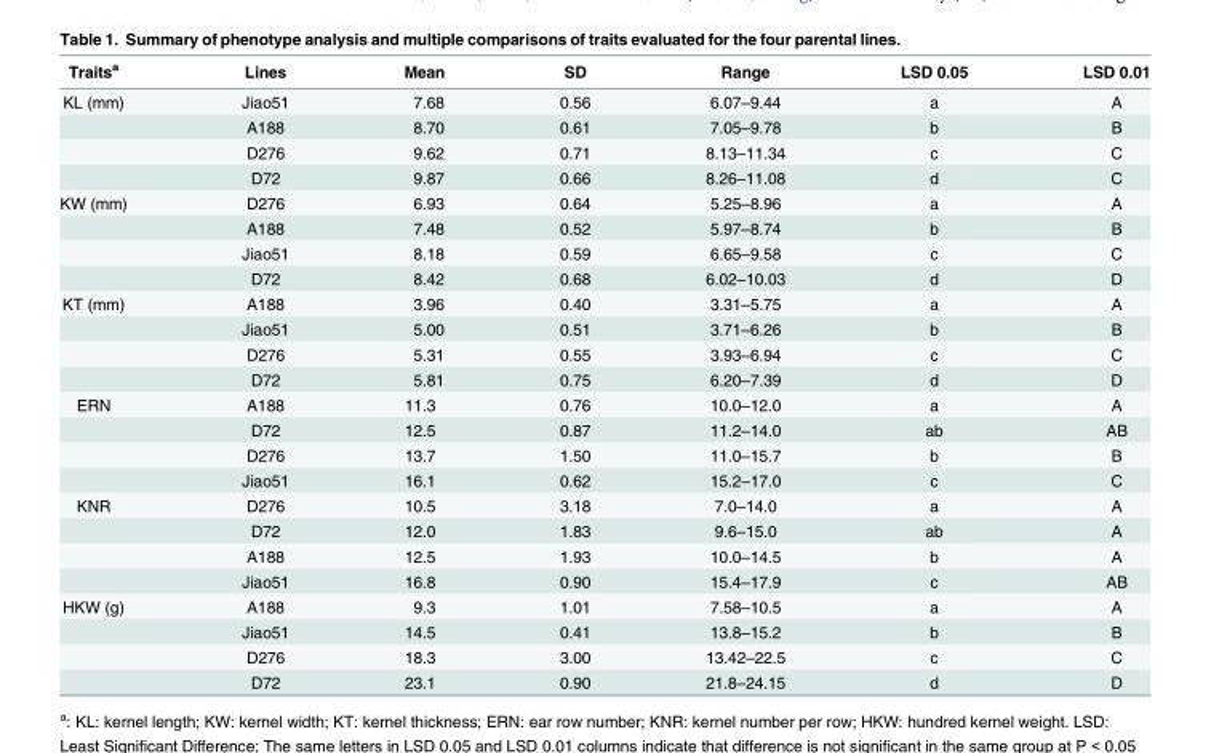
<table><thead><tr><td>Traits<sup>a</sup></td><td>Lines</td><td>Mean</td><td>SD</td><td>Range</td><td>LSD 0.05</td><td>LSD 0.01</td></tr></thead><tbody><tr><td rowspan="4">KL (mm)</td><td>Jiao51</td><td>7.68</td><td>0.56</td><td>6.07–9.44</td><td>a</td><td>A</td></tr><tr><td>A188</td><td>8.70</td><td>0.61</td><td>7.05–9.78</td><td>b</td><td>B</td></tr><tr><td>D276</td><td>9.62</td><td>0.71</td><td>8.13–11.34</td><td>c</td><td>C</td></tr><tr><td>D72</td><td>9.87</td><td>0.66</td><td>8.26–11.08</td><td>d</td><td>C</td></tr><tr><td rowspan="4">KW (mm)</td><td>D276</td><td>6.93</td><td>0.64</td><td>5.25–8.96</td><td>a</td><td>A</td></tr><tr><td>A188</td><td>7.48</td><td>0.52</td><td>5.97–8.74</td><td>b</td><td>B</td></tr><tr><td>Jiao51</td><td>8.18</td><td>0.59</td><td>6.65–9.58</td><td>c</td><td>C</td></tr><tr><td>D72</td><td>8.42</td><td>0.68</td><td>6.02–10.03</td><td>d</td><td>D</td></tr><tr><td rowspan="4">KT (mm)</td><td>A188</td><td>3.96</td><td>0.40</td><td>3.31–5.75</td><td>a</td><td>A</td></tr><tr><td>Jiao51</td><td>5.00</td><td>0.51</td><td>3.71–6.26</td><td>b</td><td>B</td></tr><tr><td>D276</td><td>5.31</td><td>0.55</td><td>3.93–6.94</td><td>c</td><td>C</td></tr><tr><td>D72</td><td>5.81</td><td>0.75</td><td>6.20–7.39</td><td>d</td><td>D</td></tr><tr><td rowspan="4">ERN</td><td>A188</td><td>11.3</td><td>0.76</td><td>10.0–12.0</td><td>a</td><td>A</td></tr><tr><td>D72</td><td>12.5</td><td>0.87</td><td>11.2–14.0</td><td>ab</td><td>AB</td></tr><tr><td>D276</td><td>13.7</td><td>1.50</td><td>11.0–15.7</td><td>b</td><td>B</td></tr><tr><td>Jiao51</td><td>16.1</td><td>0.62</td><td>15.2–17.0</td><td>c</td><td>C</td></tr><tr><td rowspan="4">KNR</td><td>D276</td><td>10.5</td><td>3.18</td><td>7.0–14.0</td><td>a</td><td>A</td></tr><tr><td>D72</td><td>12.0</td><td>1.83</td><td>9.6–15.0</td><td>ab</td><td>A</td></tr><tr><td>A188</td><td>12.5</td><td>1.93</td><td>10.0–14.5</td><td>b</td><td>A</td></tr><tr><td>Jiao51</td><td>16.8</td><td>0.90</td><td>15.4–17.9</td><td>c</td><td>AB</td></tr><tr><td rowspan="4">HKW (g)</td><td>A188</td><td>9.3</td><td>1.01</td><td>7.58–10.5</td><td>a</td><td>A</td></tr><tr><td>Jiao51</td><td>14.5</td><td>0.41</td><td>13.8–15.2</td><td>b</td><td>B</td></tr><tr><td>D276</td><td>18.3</td><td>3.00</td><td>13.42–22.5</td><td>c</td><td>C</td></tr><tr><td>D72</td><td>23.1</td><td>0.90</td><td>21.8–24.15</td><td>d</td><td>D</td></tr></tbody></table>